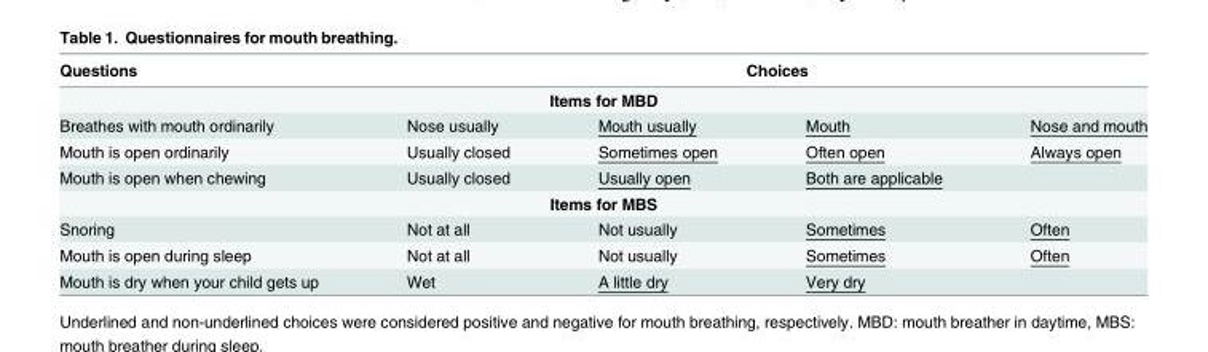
<table><thead><tr><td>Questions</td><td colspan="4">Choices</td></tr><tr><td colspan="5">Items for MBD</td></tr><tr><td>Breathes with mouth ordinarily</td><td>Nose usually</td><td>Mouth usually</td><td>Mouth</td><td>Nose and mouth</td></tr></thead><tbody><tr><td>Mouth is open ordinarily</td><td>Usually closed</td><td>Sometimes open</td><td>Often open</td><td>Always open</td></tr><tr><td>Mouth is open when chewing</td><td>Usually closed</td><td>Usually open</td><td>Both are applicable</td><td></td></tr><tr><td colspan="5">Items for MBS</td></tr><tr><td>Snoring</td><td>Not at all</td><td>Not usually</td><td>Sometimes</td><td>Often</td></tr><tr><td>Mouth is open during sleep</td><td>Not at all</td><td>Not usually</td><td>Sometimes</td><td>Often</td></tr><tr><td>Mouth is dry when your child gets up</td><td>Wet</td><td>A little dry</td><td>Very dry</td><td></td></tr></tbody></table>